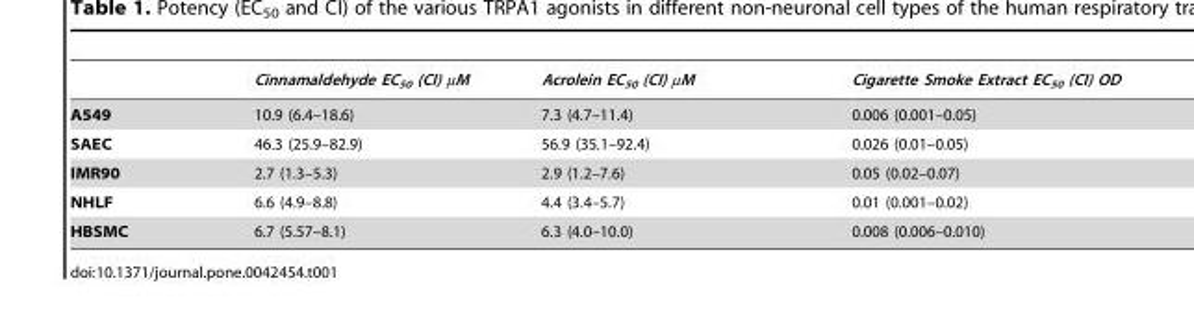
<table><thead><tr><td></td><td>Cinnamaldehyde EC<sub>50</sub> (CI) µM</td><td>Acrolein EC<sub>50</sub> (CI) µM</td><td>Cigarette Smoke Extract EC<sub>50</sub> (CI) OD</td></tr></thead><tbody><tr><td>A549</td><td>10.9 (6.4–18.6)</td><td>7.3 (4.7–11.4)</td><td>0.006 (0.001–0.05)</td></tr><tr><td>SAEC</td><td>46.3 (25.9–82.9)</td><td>56.9 (35.1–92.4)</td><td>0.026 (0.01–0.05)</td></tr><tr><td>IMR90</td><td>2.7 (1.3–5.3)</td><td>2.9 (1.2–7.6)</td><td>0.05 (0.02–0.07)</td></tr><tr><td>NHLF</td><td>6.6 (4.9–8.8)</td><td>4.4 (3.4–5.7)</td><td>0.01 (0.001–0.02)</td></tr><tr><td>HBSMC</td><td>6.7 (5.57–8.1)</td><td>6.3 (4.0–10.0)</td><td>0.008 (0.006–0.010)</td></tr></tbody></table>